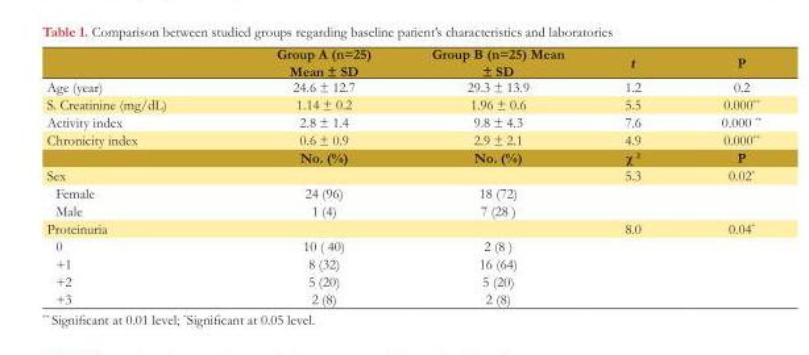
<table><thead><tr><td></td><td>Group A (n=25) Mean ± SD</td><td>Group B (n=25) Mean ± SD</td><td>t</td><td>P</td></tr></thead><tbody><tr><td>Age (year)</td><td>24.6 ± 12.7</td><td>29.3 ± 13.9</td><td>1.2</td><td>0.2</td></tr><tr><td>S. Creatinine (mg/dL)</td><td>1.14 ± 0.2</td><td>1.96 ± 0.6</td><td>5.5</td><td>0.000**</td></tr><tr><td>Activity index</td><td>2.8 ± 1.4</td><td>9.8 ± 4.3</td><td>7.6</td><td>0.000 **</td></tr><tr><td rowspan="2">Chronicity index</td><td>0.6 ± 0.9</td><td>2.9 ± 2.1</td><td>4.9</td><td>0.000**</td></tr><tr><td>No. (%)</td><td>No. (%)</td><td>χ <sup>2</sup></td><td>P</td></tr><tr><td>Sex</td><td></td><td></td><td>5.3</td><td>0.02*</td></tr><tr><td>Female</td><td>24 (96)</td><td>18 (72)</td><td></td><td></td></tr><tr><td>Male</td><td>1 (4)</td><td>7 (28 )</td><td></td><td></td></tr><tr><td>Proteinuria</td><td></td><td></td><td>8.0</td><td>0.04*</td></tr><tr><td>0</td><td>10 ( 40)</td><td>2 (8 )</td><td></td><td></td></tr><tr><td>+1</td><td>8 (32)</td><td>16 (64)</td><td></td><td></td></tr><tr><td>+2</td><td>5 (20)</td><td>5 (20)</td><td></td><td></td></tr><tr><td>+3</td><td>2 (8)</td><td>2 (8)</td><td></td><td></td></tr></tbody></table>